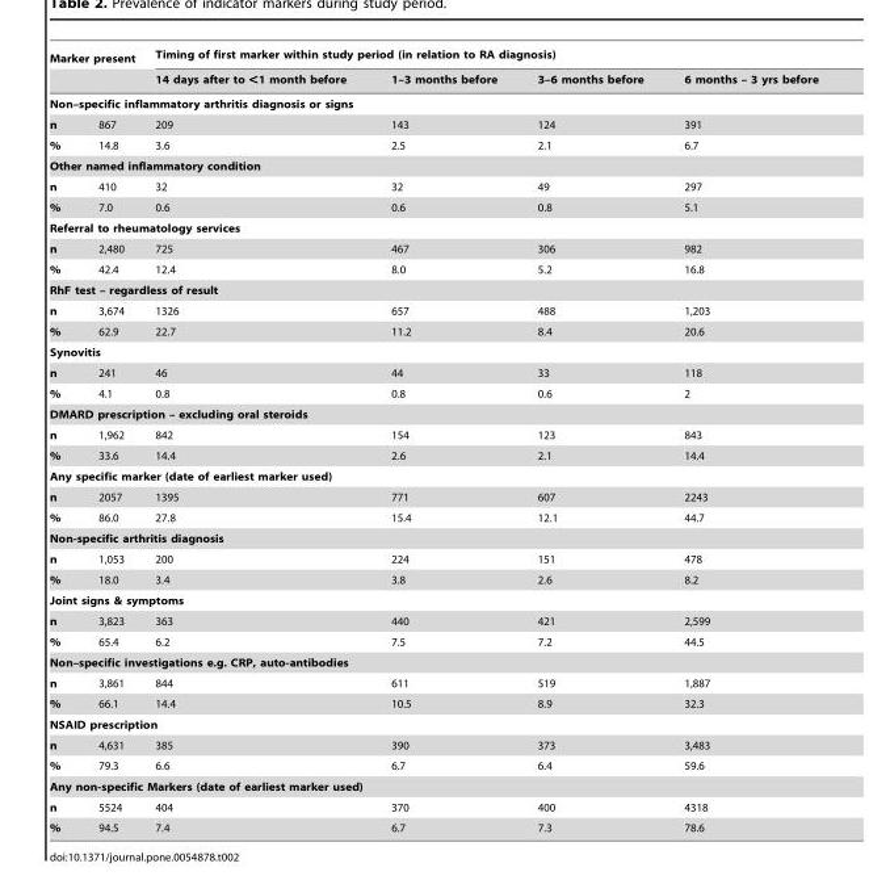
<table><thead><tr><td colspan="2">Marker present</td><td colspan="4">Timing of first marker within study period (in relation to RA diagnosis)</td></tr><tr><td></td><td></td><td>14 days after to &lt;1 month before</td><td>1–3 months before</td><td>3–6 months before</td><td>6 months – 3 yrs before</td></tr></thead><tbody><tr><td colspan="6">Non–specific inflammatory arthritis diagnosis or signs</td></tr><tr><td>n</td><td>867</td><td>209</td><td>143</td><td>124</td><td>391</td></tr><tr><td>%</td><td>14.8</td><td>3.6</td><td>2.5</td><td>2.1</td><td>6.7</td></tr><tr><td colspan="6">Other named inflammatory condition</td></tr><tr><td>n</td><td>410</td><td>32</td><td>32</td><td>49</td><td>297</td></tr><tr><td>%</td><td>7.0</td><td>0.6</td><td>0.6</td><td>0.8</td><td>5.1</td></tr><tr><td colspan="6">Referral to rheumatology services</td></tr><tr><td>n</td><td>2,480</td><td>725</td><td>467</td><td>306</td><td>982</td></tr><tr><td>%</td><td>42.4</td><td>12.4</td><td>8.0</td><td>5.2</td><td>16.8</td></tr><tr><td colspan="6">RhF test – regardless of result</td></tr><tr><td>n</td><td>3,674</td><td>1326</td><td>657</td><td>488</td><td>1,203</td></tr><tr><td>%</td><td>62.9</td><td>22.7</td><td>11.2</td><td>8.4</td><td>20.6</td></tr><tr><td colspan="6">Synovitis</td></tr><tr><td>n</td><td>241</td><td>46</td><td>44</td><td>33</td><td>118</td></tr><tr><td>%</td><td>4.1</td><td>0.8</td><td>0.8</td><td>0.6</td><td>2</td></tr><tr><td colspan="6">DMARD prescription – excluding oral steroids</td></tr><tr><td>n</td><td>1,962</td><td>842</td><td>154</td><td>123</td><td>843</td></tr><tr><td>%</td><td>33.6</td><td>14.4</td><td>2.6</td><td>2.1</td><td>14.4</td></tr><tr><td colspan="6">Any specific marker (date of earliest marker used)</td></tr><tr><td>n</td><td>2057</td><td>1395</td><td>771</td><td>607</td><td>2243</td></tr><tr><td>%</td><td>86.0</td><td>27.8</td><td>15.4</td><td>12.1</td><td>44.7</td></tr><tr><td colspan="6">Non-specific arthritis diagnosis</td></tr><tr><td>n</td><td>1,053</td><td>200</td><td>224</td><td>151</td><td>478</td></tr><tr><td>%</td><td>18.0</td><td>3.4</td><td>3.8</td><td>2.6</td><td>8.2</td></tr><tr><td colspan="6">Joint signs &amp; symptoms</td></tr><tr><td>n</td><td>3,823</td><td>363</td><td>440</td><td>421</td><td>2,599</td></tr><tr><td>%</td><td>65.4</td><td>6.2</td><td>7.5</td><td>7.2</td><td>44.5</td></tr><tr><td colspan="6">Non–specific investigations e.g. CRP, auto-antibodies</td></tr><tr><td>n</td><td>3,861</td><td>844</td><td>611</td><td>519</td><td>1,887</td></tr><tr><td>%</td><td>66.1</td><td>14.4</td><td>10.5</td><td>8.9</td><td>32.3</td></tr><tr><td colspan="6">NSAID prescription</td></tr><tr><td>n</td><td>4,631</td><td>385</td><td>390</td><td>373</td><td>3,483</td></tr><tr><td>%</td><td>79.3</td><td>6.6</td><td>6.7</td><td>6.4</td><td>59.6</td></tr><tr><td colspan="6">Any non-specific Markers (date of earliest marker used)</td></tr><tr><td>n</td><td>5524</td><td>404</td><td>370</td><td>400</td><td>4318</td></tr><tr><td>%</td><td>94.5</td><td>7.4</td><td>6.7</td><td>7.3</td><td>78.6</td></tr></tbody></table>